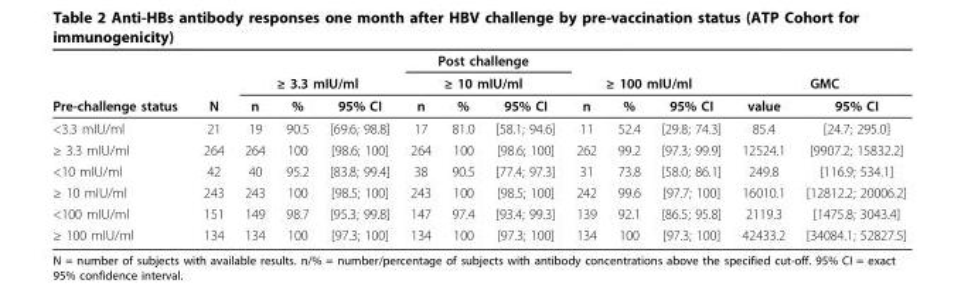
<table><thead><tr><td rowspan="3">Pre-challenge status</td><td rowspan="3">N</td><td></td><td></td><td></td><td rowspan="2" colspan="3">Post challenge ≥ 10 mIU/ml</td><td></td><td></td><td></td><td></td><td></td></tr><tr><td colspan="3">≥ 3.3 mIU/ml</td><td colspan="3">≥ 100 mIU/ml</td><td colspan="2">GMC</td></tr><tr><td>n</td><td>%</td><td>95% CI</td><td>n</td><td>%</td><td>95% CI</td><td>n</td><td>%</td><td>95% CI</td><td>value</td><td>95% CI</td></tr></thead><tbody><tr><td>&lt;3.3 mIU/ml</td><td>21</td><td>19</td><td>90.5</td><td>[69.6; 98.8]</td><td>17</td><td>81.0</td><td>[58.1; 94.6]</td><td>11</td><td>52.4</td><td>[29.8; 74.3]</td><td>85.4</td><td>[24.7; 295.0]</td></tr><tr><td>≥ 3.3 mIU/ml</td><td>264</td><td>264</td><td>100</td><td>[98.6; 100]</td><td>264</td><td>100</td><td>[98.6; 100]</td><td>262</td><td>99.2</td><td>[97.3; 99.9]</td><td>12524.1</td><td>[9907.2; 15832.2]</td></tr><tr><td>&lt;10 mIU/ml</td><td>42</td><td>40</td><td>95.2</td><td>[83.8; 99.4]</td><td>38</td><td>90.5</td><td>[77.4; 97.3]</td><td>31</td><td>73.8</td><td>[58.0; 86.1]</td><td>249.8</td><td>[116.9; 534.1]</td></tr><tr><td>≥ 10 mIU/ml</td><td>243</td><td>243</td><td>100</td><td>[98.5; 100]</td><td>243</td><td>100</td><td>[98.5; 100]</td><td>242</td><td>99.6</td><td>[97.7; 100]</td><td>16010.1</td><td>[12812.2; 20006.2]</td></tr><tr><td>&lt;100 mIU/ml</td><td>151</td><td>149</td><td>98.7</td><td>[95.3; 99.8]</td><td>147</td><td>97.4</td><td>[93.4; 99.3]</td><td>139</td><td>92.1</td><td>[86.5; 95.8]</td><td>2119.3</td><td>[1475.8; 3043.4]</td></tr><tr><td>≥ 100 mIU/ml</td><td>134</td><td>134</td><td>100</td><td>[97.3; 100]</td><td>134</td><td>100</td><td>[97.3; 100]</td><td>134</td><td>100</td><td>[97.3; 100]</td><td>42433.2</td><td>[34084.1; 52827.5]</td></tr></tbody></table>